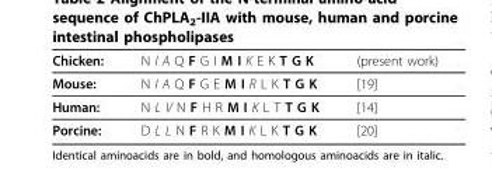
<table><thead><tr><td>Chicken:</td><td>N I A Q F G I M I K E K T G K</td><td>(present work)</td></tr></thead><tbody><tr><td>Mouse:</td><td>N I A Q F G E M I R L K T G K</td><td>[19]</td></tr><tr><td>Human:</td><td>N L V N F H R M I K L T T G K</td><td>[14]</td></tr><tr><td>Porcine:</td><td>D L L N F R K M I K L K T G K</td><td>[20]</td></tr></tbody></table>